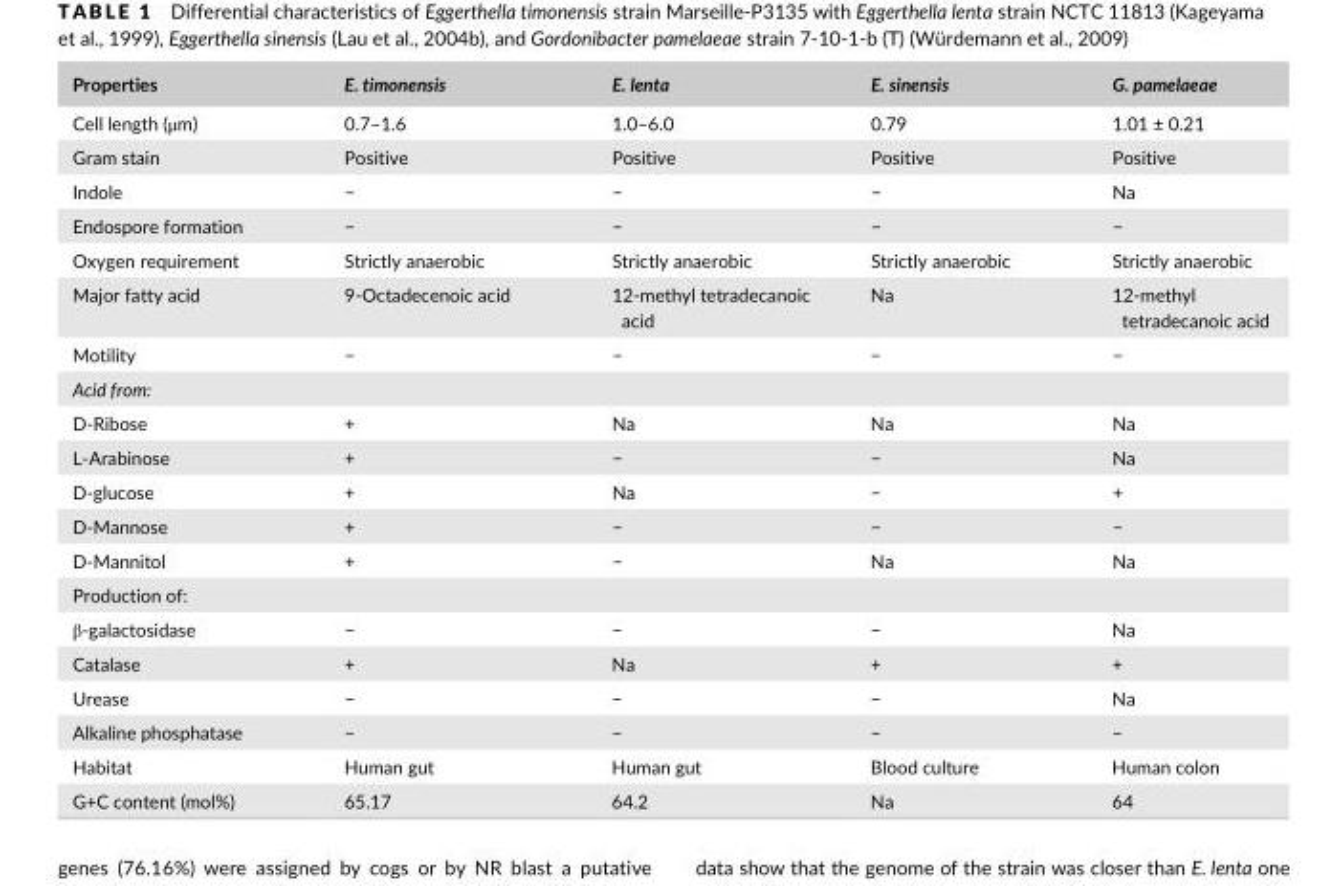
<table><thead><tr><td>Properties</td><td>E. timonensis</td><td>E. lenta</td><td>E. sinensis</td><td>G. pamelaeae</td></tr></thead><tbody><tr><td>Cell length (μm)</td><td>0.7–1.6</td><td>1.0–6.0</td><td>0.79</td><td>1.01 ± 0.21</td></tr><tr><td>Gram stain</td><td>Positive</td><td>Positive</td><td>Positive</td><td>Positive</td></tr><tr><td>Indole</td><td>−</td><td>−</td><td>−</td><td>Na</td></tr><tr><td>Endospore formation</td><td>−</td><td>−</td><td>−</td><td>−</td></tr><tr><td>Oxygen requirement</td><td>Strictly anaerobic</td><td>Strictly anaerobic</td><td>Strictly anaerobic</td><td>Strictly anaerobic</td></tr><tr><td>Major fatty acid</td><td>9- Octadecenoic acid</td><td>12- methyl tetradecanoic acid</td><td>Na</td><td>12- methyl tetradecanoic acid</td></tr><tr><td>Motility</td><td>−</td><td>−</td><td>−</td><td>−</td></tr><tr><td colspan="5">Acid from:</td></tr><tr><td>D- Ribose</td><td>+</td><td>Na</td><td>Na</td><td>Na</td></tr><tr><td>L- Arabinose</td><td>+</td><td>−</td><td>−</td><td>Na</td></tr><tr><td>D- glucose</td><td>+</td><td>Na</td><td>−</td><td>+</td></tr><tr><td>D- Mannose</td><td>+</td><td>−</td><td>−</td><td>−</td></tr><tr><td>D- Mannitol</td><td>+</td><td>−</td><td>Na</td><td>Na</td></tr><tr><td colspan="5">Production of:</td></tr><tr><td>β- galactosidase</td><td>−</td><td>−</td><td>−</td><td>Na</td></tr><tr><td>Catalase</td><td>+</td><td>Na</td><td>+</td><td>+</td></tr><tr><td>Urease</td><td>−</td><td>−</td><td>−</td><td>Na</td></tr><tr><td>Alkaline phosphatase</td><td>−</td><td>−</td><td>−</td><td>−</td></tr><tr><td>Habitat</td><td>Human gut</td><td>Human gut</td><td>Blood culture</td><td>Human colon</td></tr><tr><td>G+C content (mol%)</td><td>65.17</td><td>64.2</td><td>Na</td><td>64</td></tr></tbody></table>